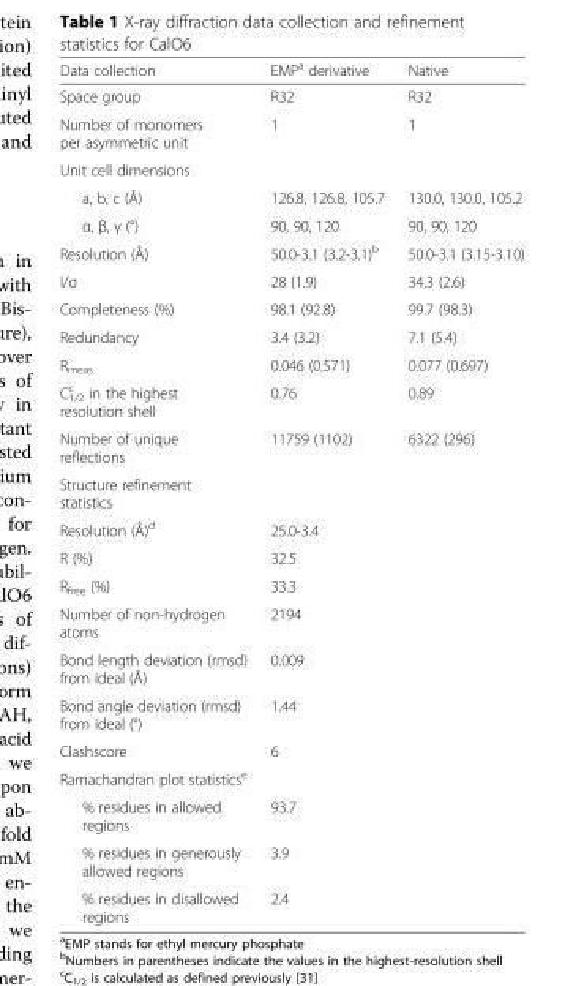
<table><thead><tr><td>Data collection</td><td>EMP<sup>a</sup> derivative</td><td>Native</td></tr></thead><tbody><tr><td>Space group</td><td>R32</td><td>R32</td></tr><tr><td>Number of monomers per asymmetric unit</td><td>1</td><td>1</td></tr><tr><td colspan="3">Unit cell dimensions</td></tr><tr><td>a, b, c (Å)</td><td>126.8, 126.8, 105.7</td><td>130.0, 130.0, 105.2</td></tr><tr><td>α, β, γ (°)</td><td>90, 90, 120</td><td>90, 90, 120</td></tr><tr><td>Resolution (Å)</td><td>50.0-3.1 (3.2-3.1)<sup>b</sup></td><td>50.0-3.1 (3.15-3.10)</td></tr><tr><td>I/σ</td><td>28 (1.9)</td><td>34.3 (2.6)</td></tr><tr><td>Completeness (%)</td><td>98.1 (92.8)</td><td>99.7 (98.3)</td></tr><tr><td>Redundancy</td><td>3.4 (3.2)</td><td>7.1 (5.4)</td></tr><tr><td>R<sub>meas</sub></td><td>0.046 (0.571)</td><td>0.077 (0.697)</td></tr><tr><td>C<sub>1/2</sub> <sup>c</sup> in the highest resolution shell</td><td>0.76</td><td>0.89</td></tr><tr><td>Number of unique reflections</td><td>11759 (1102)</td><td>6322 (296)</td></tr><tr><td colspan="3">Structure refinement statistics</td></tr><tr><td>Resolution (Å)<sup>d</sup></td><td>25.0-3.4</td><td></td></tr><tr><td>R (%)</td><td>32.5</td><td></td></tr><tr><td>R<sub>free</sub> (%)</td><td>33.3</td><td></td></tr><tr><td>Number of non-hydrogen atoms</td><td>2194</td><td></td></tr><tr><td>Bond length deviation (rmsd) from ideal (Å)</td><td>0.009</td><td></td></tr><tr><td>Bond angle deviation (rmsd) from ideal (°)</td><td>1.44</td><td></td></tr><tr><td>Clashscore</td><td>6</td><td></td></tr><tr><td colspan="3">Ramachandran plot statistics<sup>e</sup></td></tr><tr><td>% residues in allowed regions</td><td>93.7</td><td></td></tr><tr><td>% residues in generously allowed regions</td><td>3.9</td><td></td></tr><tr><td>% residues in disallowed regions</td><td>2.4</td><td></td></tr></tbody></table>